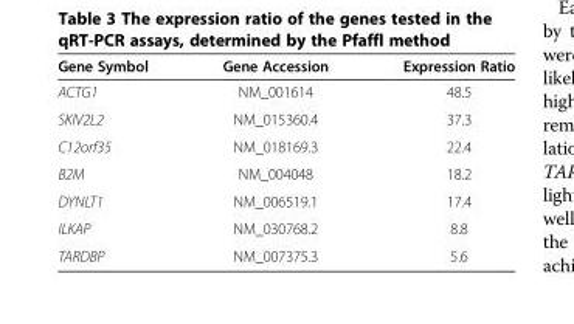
<table><thead><tr><td>Gene Symbol</td><td>Gene Accession</td><td>Expression Ratio</td></tr></thead><tbody><tr><td>ACTG1</td><td>NM_001614</td><td>48.5</td></tr><tr><td>SKIV2L2</td><td>NM_015360.4</td><td>37.3</td></tr><tr><td>C12orf35</td><td>NM_018169.3</td><td>22.4</td></tr><tr><td>B2M</td><td>NM_004048</td><td>18.2</td></tr><tr><td>DYNLT1</td><td>NM_006519.1</td><td>17.4</td></tr><tr><td>ILKAP</td><td>NM_030768.2</td><td>8.8</td></tr><tr><td>TARDBP</td><td>NM_007375.3</td><td>5.6</td></tr></tbody></table>